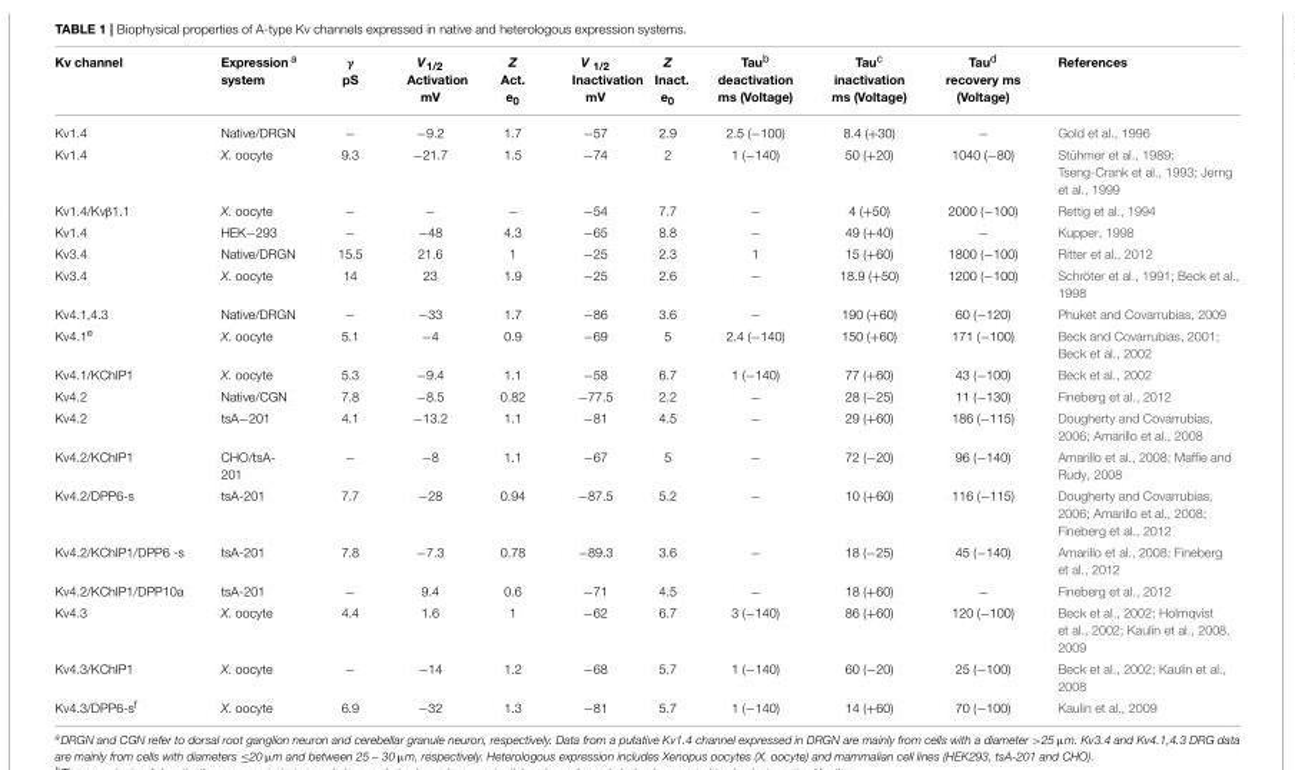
<table><thead><tr><td>Kv channel</td><td>Expression <sup>a</sup> system</td><td>γ pS</td><td>V<sub>1/2</sub> Activation mV</td><td>Z Act. e<sub>0</sub></td><td>V <sub>1/2</sub> Inactivation mV</td><td>Z Inact. e<sub>0</sub></td><td>Tau<sup>b</sup> deactivation ms (Voltage)</td><td>Tau<sup>c</sup> inactivation ms (Voltage)</td><td>Tau<sup>d</sup> recovery ms (Voltage)</td><td>References</td></tr></thead><tbody><tr><td>Kv1.4</td><td>Native/DRGN</td><td>−</td><td>−9.2</td><td>1.7</td><td>−57</td><td>2.9</td><td>2.5 (−100)</td><td>8.4 (+30)</td><td>−</td><td>Gold et al., 1996</td></tr><tr><td>Kv1.4</td><td>X. oocyte</td><td>9.3</td><td>−21.7</td><td>1.5</td><td>−74</td><td>2</td><td>1 (−140)</td><td>50 (+20)</td><td>1040 (−80)</td><td>Stühmer et al., 1989; Tseng-Crank et al., 1993; Jerng et al., 1999</td></tr><tr><td>Kv1.4/Kvβ1.1</td><td>X. oocyte</td><td>−</td><td>−</td><td>−</td><td>−54</td><td>7.7</td><td>−</td><td>4 (+50)</td><td>2000 (−100)</td><td>Rettig et al., 1994</td></tr><tr><td>Kv1.4</td><td>HEK−293</td><td>−</td><td>−48</td><td>4.3</td><td>−65</td><td>8.8</td><td>−</td><td>49 (+40)</td><td>−</td><td>Kupper, 1998</td></tr><tr><td>Kv3.4</td><td>Native/DRGN</td><td>15.5</td><td>21.6</td><td>1</td><td>−25</td><td>2.3</td><td>1</td><td>15 (+60)</td><td>1800 (−100)</td><td>Ritter et al., 2012</td></tr><tr><td>Kv3.4</td><td>X. oocyte</td><td>14</td><td>23</td><td>1.9</td><td>−25</td><td>2.6</td><td>−</td><td>18.9 (+50)</td><td>1200 (−100)</td><td>Schröter et al., 1991; Beck et al., 1998</td></tr><tr><td>Kv4.1,4.3</td><td>Native/DRGN</td><td>−</td><td>−33</td><td>1.7</td><td>−86</td><td>3.6</td><td>−</td><td>190 (+60)</td><td>60 (−120)</td><td>Phuket and Covarrubias, 2009</td></tr><tr><td>Kv4.1<sup>e</sup></td><td>X. oocyte</td><td>5.1</td><td>−4</td><td>0.9</td><td>−69</td><td>5</td><td>2.4 (−140)</td><td>150 (+60)</td><td>171 (−100)</td><td>Beck and Covarrubias, 2001; Beck et al., 2002</td></tr><tr><td>Kv4.1/KChIP1</td><td>X. oocyte</td><td>5.3</td><td>−9.4</td><td>1.1</td><td>−58</td><td>6.7</td><td>1 (−140)</td><td>77 (+60)</td><td>43 (−100)</td><td>Beck et al., 2002</td></tr><tr><td>Kv4.2</td><td>Native/CGN</td><td>7.8</td><td>−8.5</td><td>0.82</td><td>−77.5</td><td>2.2</td><td>−</td><td>28 (−25)</td><td>11 (−130)</td><td>Fineberg et al., 2012</td></tr><tr><td>Kv4.2</td><td>tsA−201</td><td>4.1</td><td>−13.2</td><td>1.1</td><td>−81</td><td>4.5</td><td>−</td><td>29 (+60)</td><td>186 (−115)</td><td>Dougherty and Covarrubias, 2006; Amarillo et al., 2008</td></tr><tr><td>Kv4.2/KChIP1</td><td>CHO/tsA- 201</td><td>−</td><td>−8</td><td>1.1</td><td>−67</td><td>5</td><td>−</td><td>72 (−20)</td><td>96 (−140)</td><td>Amarillo et al., 2008; Maffie and Rudy, 2008</td></tr><tr><td>Kv4.2/DPP6-s</td><td>tsA-201</td><td>7.7</td><td>−28</td><td>0.94</td><td>−87.5</td><td>5.2</td><td>−</td><td>10 (+60)</td><td>116 (−115)</td><td>Dougherty and Covarrubias, 2006; Amarillo et al., 2008; Fineberg et al., 2012</td></tr><tr><td>Kv4.2/KChIP1/DPP6 -s</td><td>tsA-201</td><td>7.8</td><td>−7.3</td><td>0.78</td><td>−89.3</td><td>3.6</td><td>−</td><td>18 (−25)</td><td>45 (−140)</td><td>Amarillo et al., 2008; Fineberg et al., 2012</td></tr><tr><td>Kv4.2/KChIP1/DPP10a</td><td>tsA-201</td><td>−</td><td>9.4</td><td>0.6</td><td>−71</td><td>4.5</td><td>−</td><td>18 (+60)</td><td>−</td><td>Fineberg et al., 2012</td></tr><tr><td>Kv4.3</td><td>X. oocyte</td><td>4.4</td><td>1.6</td><td>1</td><td>−62</td><td>6.7</td><td>3 (−140)</td><td>86 (+60)</td><td>120 (−100)</td><td>Beck et al., 2002; Holmqvist et al., 2002; Kaulin et al., 2008, 2009</td></tr><tr><td>Kv4.3/KChIP1</td><td>X. oocyte</td><td>−</td><td>−14</td><td>1.2</td><td>−68</td><td>5.7</td><td>1 (−140)</td><td>60 (−20)</td><td>25 (−100)</td><td>Beck et al., 2002; Kaulin et al., 2008</td></tr><tr><td>Kv4.3/DPP6-s<sup>f</sup></td><td>X. oocyte</td><td>6.9</td><td>−32</td><td>1.3</td><td>−81</td><td>5.7</td><td>1 (−140)</td><td>14 (+60)</td><td>70 (−100)</td><td>Kaulin et al., 2009</td></tr></tbody></table>